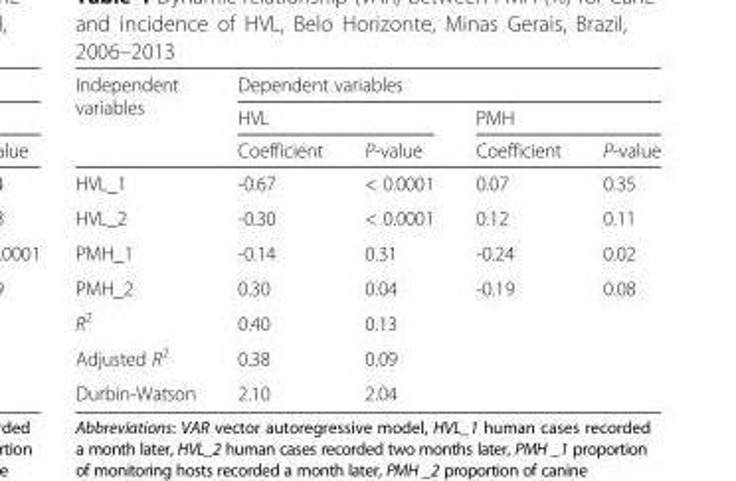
<table><thead><tr><td rowspan="3">Independent variables</td><td colspan="4">Dependent variables</td></tr><tr><td colspan="2">HVL</td><td colspan="2">PMH</td></tr><tr><td>Coefficient</td><td>P-value</td><td>Coefficient</td><td>P-value</td></tr></thead><tbody><tr><td>HVL_1</td><td>-0.67</td><td>&lt; 0.0001</td><td>0.07</td><td>0.35</td></tr><tr><td>HVL_2</td><td>-0.30</td><td>&lt; 0.0001</td><td>0.12</td><td>0.11</td></tr><tr><td>PMH_1</td><td>-0.14</td><td>0.31</td><td>-0.24</td><td>0.02</td></tr><tr><td>PMH_2</td><td>0.30</td><td>0.04</td><td>-0.19</td><td>0.08</td></tr><tr><td>R<sup>2</sup></td><td>0.40</td><td>0.13</td><td></td><td></td></tr><tr><td>Adjusted R<sup>2</sup></td><td>0.38</td><td>0.09</td><td></td><td></td></tr><tr><td>Durbin-Watson</td><td>2.10</td><td>2.04</td><td></td><td></td></tr></tbody></table>